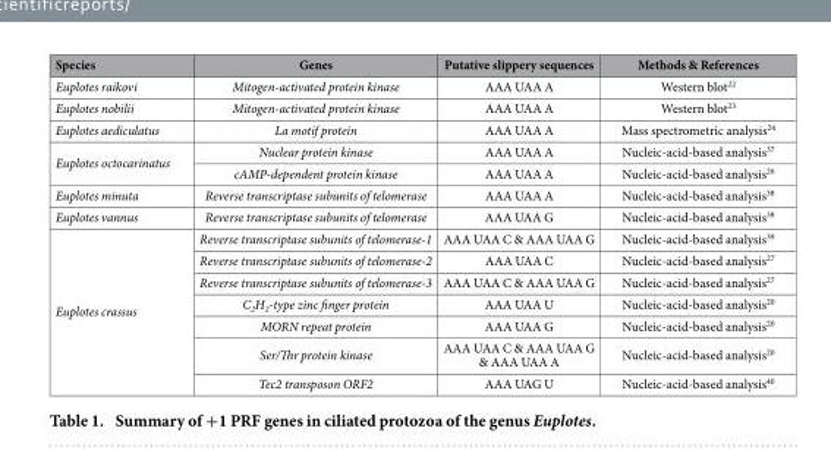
<table><thead><tr><td>Species</td><td>Genes</td><td>Putative slippery sequences</td><td>Methods &amp; References</td></tr></thead><tbody><tr><td>Euplotes raikovi</td><td>Mitogen-activated protein kinase</td><td>AAA UAA A</td><td>Western blot<sup>22</sup></td></tr><tr><td>Euplotes nobilii</td><td>Mitogen-activated protein kinase</td><td>AAA UAA A</td><td>Western blot<sup>23</sup></td></tr><tr><td>Euplotes aediculatus</td><td>La motif protein</td><td>AAA UAA A</td><td>Mass spectrometric analysis<sup>24</sup></td></tr><tr><td rowspan="2">Euplotes octocarinatus</td><td>Nuclear protein kinase</td><td>AAA UAA A</td><td>Nucleic-acid-based analysis<sup>37</sup></td></tr><tr><td>cAMP-dependent protein kinase</td><td>AAA UAA A</td><td>Nucleic-acid-based analysis<sup>26</sup></td></tr><tr><td>Euplotes minuta</td><td>Reverse transcriptase subunits of telomerase</td><td>AAA UAA A</td><td>Nucleic-acid-based analysis<sup>38</sup></td></tr><tr><td>Euplotes vannus</td><td>Reverse transcriptase subunits of telomerase</td><td>AAA UAA G</td><td>Nucleic-acid-based analysis<sup>38</sup></td></tr><tr><td rowspan="7">Euplotes crassus</td><td>Reverse transcriptase subunits of telomerase-1</td><td>AAA UAA C &amp; AAA UAA G</td><td>Nucleic-acid-based analysis<sup>39</sup></td></tr><tr><td>Reverse transcriptase subunits of telomerase-2</td><td>AAA UAA C</td><td>Nucleic-acid-based analysis<sup>27</sup></td></tr><tr><td>Reverse transcriptase subunits of telomerase-3</td><td>AAA UAA C &amp; AAA UAA G</td><td>Nucleic-acid-based analysis<sup>27</sup></td></tr><tr><td>C<sub>2</sub>H<sub>2</sub>-type zinc finger protein</td><td>AAA UAA U</td><td>Nucleic-acid-based analysis<sup>20</sup></td></tr><tr><td>MORN repeat protein</td><td>AAA UAA G</td><td>Nucleic-acid-based analysis<sup>20</sup></td></tr><tr><td>Ser/Thr protein kinase</td><td>AAA UAA C &amp; AAA UAA G &amp; AAA UAA A</td><td>Nucleic-acid-based analysis<sup>20</sup></td></tr><tr><td>Tec2 transposon ORF2</td><td>AAA UAG U</td><td>Nucleic-acid-based analysis<sup>40</sup></td></tr></tbody></table>